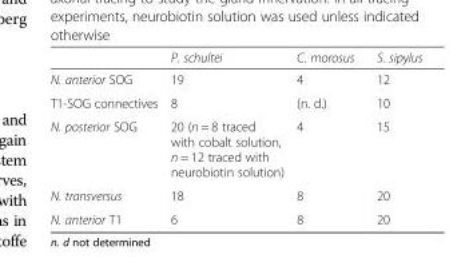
<table><thead><tr><td></td><td>P. schultei</td><td>C. morosus</td><td>S. sipylus</td></tr></thead><tbody><tr><td>N. anterior SOG</td><td>19</td><td>4</td><td>12</td></tr><tr><td>T1-SOG connectives</td><td>8</td><td>(n. d.)</td><td>10</td></tr><tr><td>N. posterior SOG</td><td>20 (n = 8 traced with cobalt solution, n = 12 traced with neurobiotin solution)</td><td>4</td><td>15</td></tr><tr><td>N. transversus</td><td>18</td><td>8</td><td>20</td></tr><tr><td>N. anterior T1</td><td>6</td><td>8</td><td>20</td></tr></tbody></table>